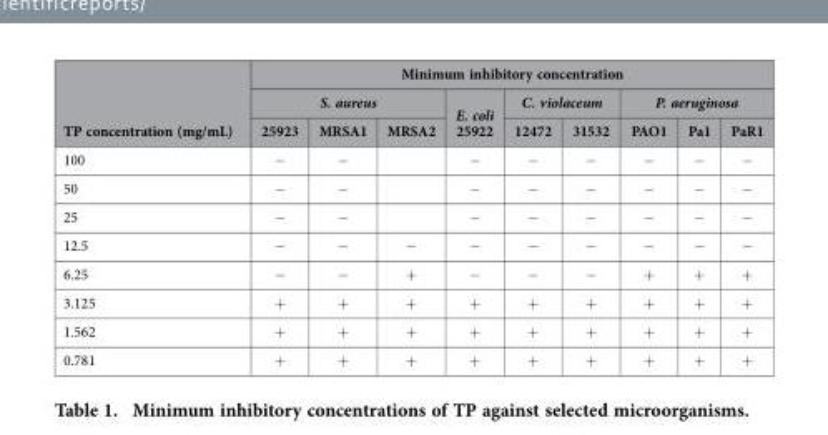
<table><thead><tr><td rowspan="3">TP concentration (mg/mL)</td><td colspan="9">Minimum inhibitory concentration</td></tr><tr><td colspan="3">S. aureus</td><td rowspan="2">E. coli 25922</td><td colspan="2">C. violaceum</td><td colspan="3">P. aeruginosa</td></tr><tr><td>25923</td><td>MRSA1</td><td>MRSA2</td><td>12472</td><td>31532</td><td>PAO1</td><td>Pa1</td><td>PaR1</td></tr></thead><tbody><tr><td>100</td><td>−</td><td>−</td><td></td><td>−</td><td>−</td><td>−</td><td>−</td><td>−</td><td>−</td></tr><tr><td>50</td><td>−</td><td>−</td><td></td><td>−</td><td>−</td><td>−</td><td>−</td><td>−</td><td>−</td></tr><tr><td>25</td><td>−</td><td>−</td><td></td><td>−</td><td>−</td><td>−</td><td>−</td><td>−</td><td>−</td></tr><tr><td>12.5</td><td>−</td><td>−</td><td>−</td><td>−</td><td>−</td><td>−</td><td>−</td><td>−</td><td>−</td></tr><tr><td>6.25</td><td>−</td><td>−</td><td>+</td><td>−</td><td>−</td><td>−</td><td>+</td><td>+</td><td>+</td></tr><tr><td>3.125</td><td>+</td><td>+</td><td>+</td><td>+</td><td>+</td><td>+</td><td>+</td><td>+</td><td>+</td></tr><tr><td>1.562</td><td>+</td><td>+</td><td>+</td><td>+</td><td>+</td><td>+</td><td>+</td><td>+</td><td>+</td></tr><tr><td>0.781</td><td>+</td><td>+</td><td>+</td><td>+</td><td>+</td><td>+</td><td>+</td><td>+</td><td>+</td></tr></tbody></table>